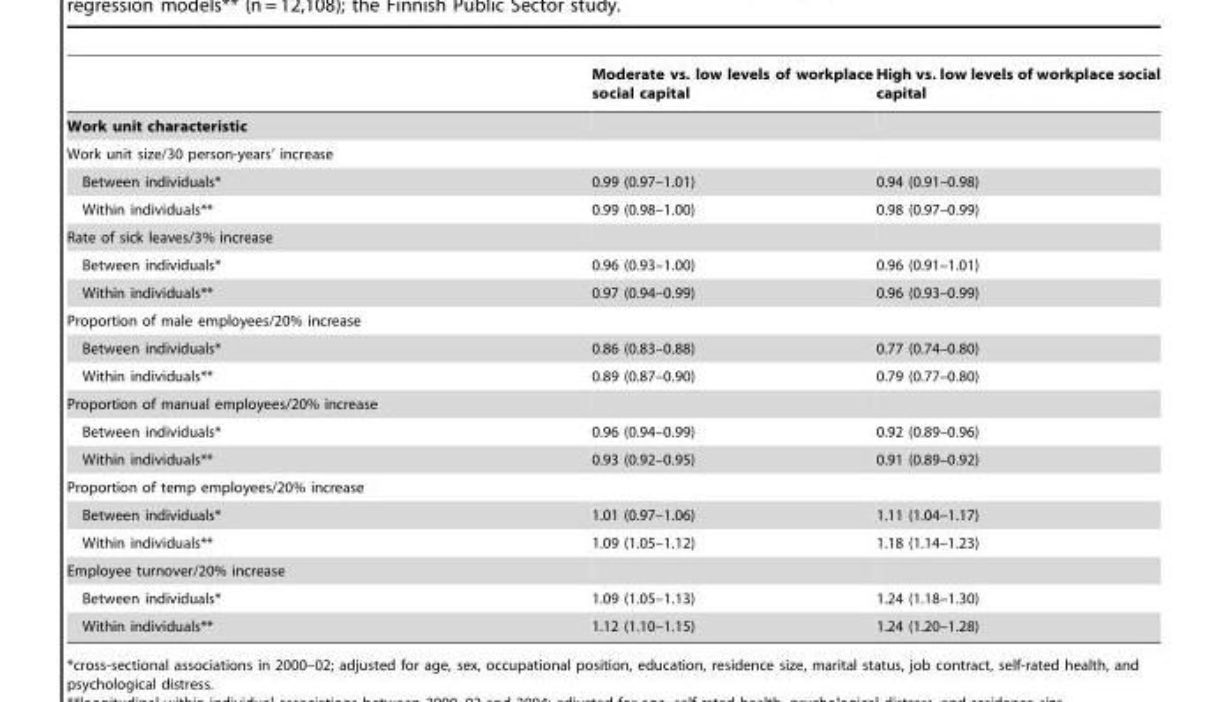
<table><thead><tr><td></td><td>Moderate vs. low levels of workplace social capital</td><td>High vs. low levels of workplace social capital</td></tr></thead><tbody><tr><td colspan="3">Work unit characteristic</td></tr><tr><td colspan="3">Work unit size/30 person-years’ increase</td></tr><tr><td>Between individuals*</td><td>0.99 (0.97–1.01)</td><td>0.94 (0.91–0.98)</td></tr><tr><td>Within individuals**</td><td>0.99 (0.98–1.00)</td><td>0.98 (0.97–0.99)</td></tr><tr><td colspan="3">Rate of sick leaves/3% increase</td></tr><tr><td>Between individuals*</td><td>0.96 (0.93–1.00)</td><td>0.96 (0.91–1.01)</td></tr><tr><td>Within individuals**</td><td>0.97 (0.94–0.99)</td><td>0.96 (0.93–0.99)</td></tr><tr><td colspan="3">Proportion of male employees/20% increase</td></tr><tr><td>Between individuals*</td><td>0.86 (0.83–0.88)</td><td>0.77 (0.74–0.80)</td></tr><tr><td>Within individuals**</td><td>0.89 (0.87–0.90)</td><td>0.79 (0.77–0.80)</td></tr><tr><td colspan="3">Proportion of manual employees/20% increase</td></tr><tr><td>Between individuals*</td><td>0.96 (0.94–0.99)</td><td>0.92 (0.89–0.96)</td></tr><tr><td>Within individuals**</td><td>0.93 (0.92–0.95)</td><td>0.91 (0.89–0.92)</td></tr><tr><td colspan="3">Proportion of temp employees/20% increase</td></tr><tr><td>Between individuals*</td><td>1.01 (0.97–1.06)</td><td>1.11 (1.04–1.17)</td></tr><tr><td>Within individuals**</td><td>1.09 (1.05–1.12)</td><td>1.18 (1.14–1.23)</td></tr><tr><td colspan="3">Employee turnover/20% increase</td></tr><tr><td>Between individuals*</td><td>1.09 (1.05–1.13)</td><td>1.24 (1.18–1.30)</td></tr><tr><td>Within individuals**</td><td>1.12 (1.10–1.15)</td><td>1.24 (1.20–1.28)</td></tr></tbody></table>